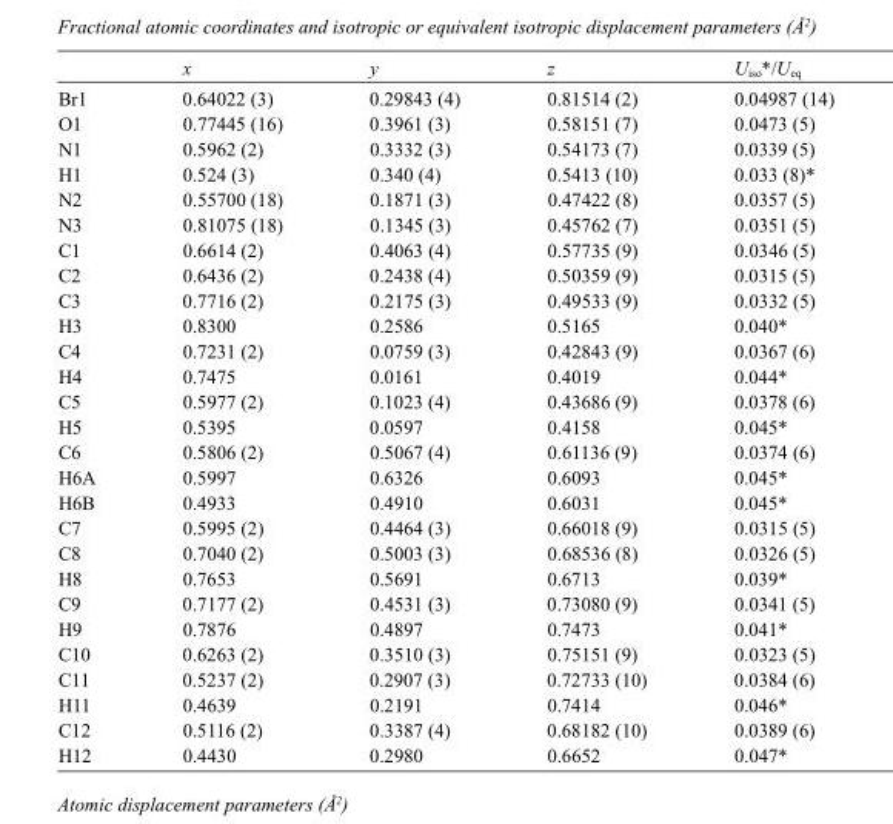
<table><thead><tr><td></td><td>x</td><td>y</td><td>z</td><td>U<sub>iso</sub>*/U<sub>eq</sub></td></tr></thead><tbody><tr><td>Br1</td><td>0.64022 (3)</td><td>0.29843 (4)</td><td>0.81514 (2)</td><td>0.04987 (14)</td></tr><tr><td>O1</td><td>0.77445 (16)</td><td>0.3961 (3)</td><td>0.58151 (7)</td><td>0.0473 (5)</td></tr><tr><td>N1</td><td>0.5962 (2)</td><td>0.3332 (3)</td><td>0.54173 (7)</td><td>0.0339 (5)</td></tr><tr><td>H1</td><td>0.524 (3)</td><td>0.340 (4)</td><td>0.5413 (10)</td><td>0.033 (8)*</td></tr><tr><td>N2</td><td>0.55700 (18)</td><td>0.1871 (3)</td><td>0.47422 (8)</td><td>0.0357 (5)</td></tr><tr><td>N3</td><td>0.81075 (18)</td><td>0.1345 (3)</td><td>0.45762 (7)</td><td>0.0351 (5)</td></tr><tr><td>C1</td><td>0.6614 (2)</td><td>0.4063 (4)</td><td>0.57735 (9)</td><td>0.0346 (5)</td></tr><tr><td>C2</td><td>0.6436 (2)</td><td>0.2438 (4)</td><td>0.50359 (9)</td><td>0.0315 (5)</td></tr><tr><td>C3</td><td>0.7716 (2)</td><td>0.2175 (3)</td><td>0.49533 (9)</td><td>0.0332 (5)</td></tr><tr><td>H3</td><td>0.8300</td><td>0.2586</td><td>0.5165</td><td>0.040*</td></tr><tr><td>C4</td><td>0.7231 (2)</td><td>0.0759 (3)</td><td>0.42843 (9)</td><td>0.0367 (6)</td></tr><tr><td>H4</td><td>0.7475</td><td>0.0161</td><td>0.4019</td><td>0.044*</td></tr><tr><td>C5</td><td>0.5977 (2)</td><td>0.1023 (4)</td><td>0.43686 (9)</td><td>0.0378 (6)</td></tr><tr><td>H5</td><td>0.5395</td><td>0.0597</td><td>0.4158</td><td>0.045*</td></tr><tr><td>C6</td><td>0.5806 (2)</td><td>0.5067 (4)</td><td>0.61136 (9)</td><td>0.0374 (6)</td></tr><tr><td>H6A</td><td>0.5997</td><td>0.6326</td><td>0.6093</td><td>0.045*</td></tr><tr><td>H6B</td><td>0.4933</td><td>0.4910</td><td>0.6031</td><td>0.045*</td></tr><tr><td>C7</td><td>0.5995 (2)</td><td>0.4464 (3)</td><td>0.66018 (9)</td><td>0.0315 (5)</td></tr><tr><td>C8</td><td>0.7040 (2)</td><td>0.5003 (3)</td><td>0.68536 (8)</td><td>0.0326 (5)</td></tr><tr><td>H8</td><td>0.7653</td><td>0.5691</td><td>0.6713</td><td>0.039*</td></tr><tr><td>C9</td><td>0.7177 (2)</td><td>0.4531 (3)</td><td>0.73080 (9)</td><td>0.0341 (5)</td></tr><tr><td>H9</td><td>0.7876</td><td>0.4897</td><td>0.7473</td><td>0.041*</td></tr><tr><td>C10</td><td>0.6263 (2)</td><td>0.3510 (3)</td><td>0.75151 (9)</td><td>0.0323 (5)</td></tr><tr><td>C11</td><td>0.5237 (2)</td><td>0.2907 (3)</td><td>0.72733 (10)</td><td>0.0384 (6)</td></tr><tr><td>H11</td><td>0.4639</td><td>0.2191</td><td>0.7414</td><td>0.046*</td></tr><tr><td>C12</td><td>0.5116 (2)</td><td>0.3387 (4)</td><td>0.68182 (10)</td><td>0.0389 (6)</td></tr><tr><td>H12</td><td>0.4430</td><td>0.2980</td><td>0.6652</td><td>0.047*</td></tr></tbody></table>